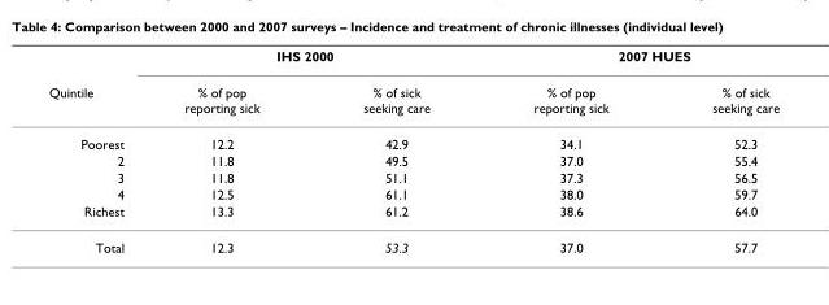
<table><thead><tr><td rowspan="2">Quintile</td><td colspan="2">IHS 2000</td><td colspan="2">2007 HUES</td></tr><tr><td>% of pop reporting sick</td><td>% of sick seeking care</td><td>% of pop reporting sick</td><td>% of sick seeking care</td></tr></thead><tbody><tr><td>Poorest</td><td>12.2</td><td>42.9</td><td>34.1</td><td>52.3</td></tr><tr><td>2</td><td>11.8</td><td>49.5</td><td>37.0</td><td>55.4</td></tr><tr><td>3</td><td>11.8</td><td>51.1</td><td>37.3</td><td>56.5</td></tr><tr><td>4</td><td>12.5</td><td>61.1</td><td>38.0</td><td>59.7</td></tr><tr><td>Richest</td><td>13.3</td><td>61.2</td><td>38.6</td><td>64.0</td></tr><tr><td>Total</td><td>12.3</td><td>53.3</td><td>37.0</td><td>57.7</td></tr></tbody></table>